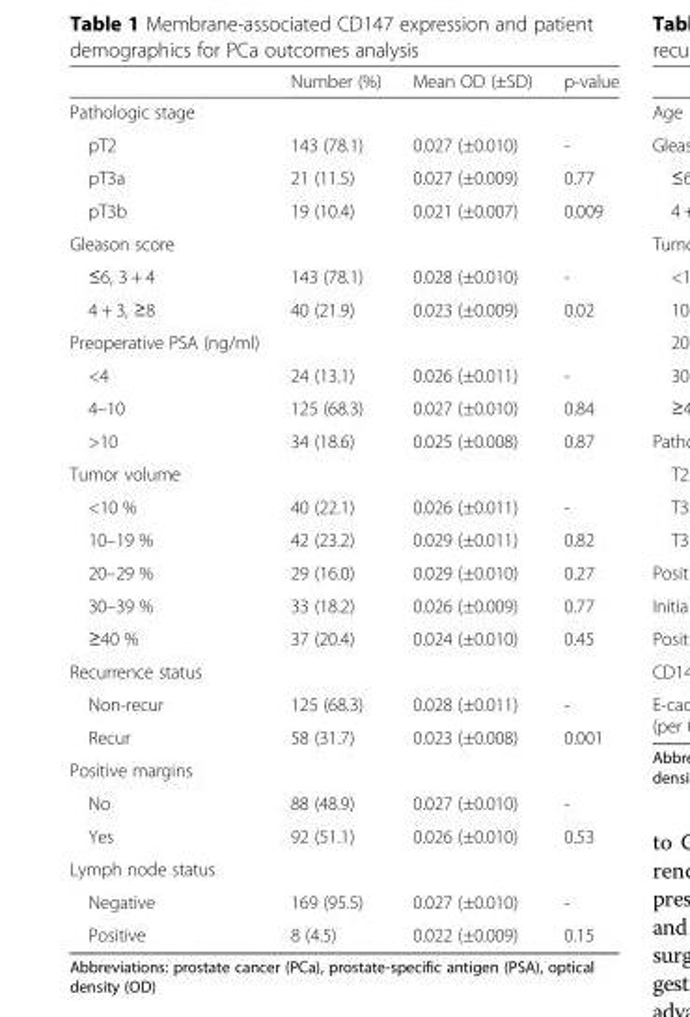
<table><thead><tr><td></td><td>Number (%)</td><td>Mean OD (±SD)</td><td>p-value</td></tr></thead><tbody><tr><td colspan="4">Pathologic stage</td></tr><tr><td>pT2</td><td>143 (78.1)</td><td>0.027 (±0.010)</td><td>-</td></tr><tr><td>pT3a</td><td>21 (11.5)</td><td>0.027 (±0.009)</td><td>0.77</td></tr><tr><td>pT3b</td><td>19 (10.4)</td><td>0.021 (±0.007)</td><td>0.009</td></tr><tr><td colspan="4">Gleason score</td></tr><tr><td>≤6, 3 + 4</td><td>143 (78.1)</td><td>0.028 (±0.010)</td><td>-</td></tr><tr><td>4 + 3, ≥8</td><td>40 (21.9)</td><td>0.023 (±0.009)</td><td>0.02</td></tr><tr><td colspan="4">Preoperative PSA (ng/ml)</td></tr><tr><td>&lt;4</td><td>24 (13.1)</td><td>0.026 (±0.011)</td><td>-</td></tr><tr><td>4–10</td><td>125 (68.3)</td><td>0.027 (±0.010)</td><td>0.84</td></tr><tr><td>&gt;10</td><td>34 (18.6)</td><td>0.025 (±0.008)</td><td>0.87</td></tr><tr><td colspan="4">Tumor volume</td></tr><tr><td>&lt;10 %</td><td>40 (22.1)</td><td>0.026 (±0.011)</td><td>-</td></tr><tr><td>10–19 %</td><td>42 (23.2)</td><td>0.029 (±0.011)</td><td>0.82</td></tr><tr><td>20–29 %</td><td>29 (16.0)</td><td>0.029 (±0.010)</td><td>0.27</td></tr><tr><td>30–39 %</td><td>33 (18.2)</td><td>0.026 (±0.009)</td><td>0.77</td></tr><tr><td>≥40 %</td><td>37 (20.4)</td><td>0.024 (±0.010)</td><td>0.45</td></tr><tr><td colspan="4">Recurrence status</td></tr><tr><td>Non-recur</td><td>125 (68.3)</td><td>0.028 (±0.011)</td><td>-</td></tr><tr><td>Recur</td><td>58 (31.7)</td><td>0.023 (±0.008)</td><td>0.001</td></tr><tr><td colspan="4">Positive margins</td></tr><tr><td>No</td><td>88 (48.9)</td><td>0.027 (±0.010)</td><td>-</td></tr><tr><td>Yes</td><td>92 (51.1)</td><td>0.026 (±0.010)</td><td>0.53</td></tr><tr><td colspan="4">Lymph node status</td></tr><tr><td>Negative</td><td>169 (95.5)</td><td>0.027 (±0.010)</td><td>-</td></tr><tr><td>Positive</td><td>8 (4.5)</td><td>0.022 (±0.009)</td><td>0.15</td></tr></tbody></table>